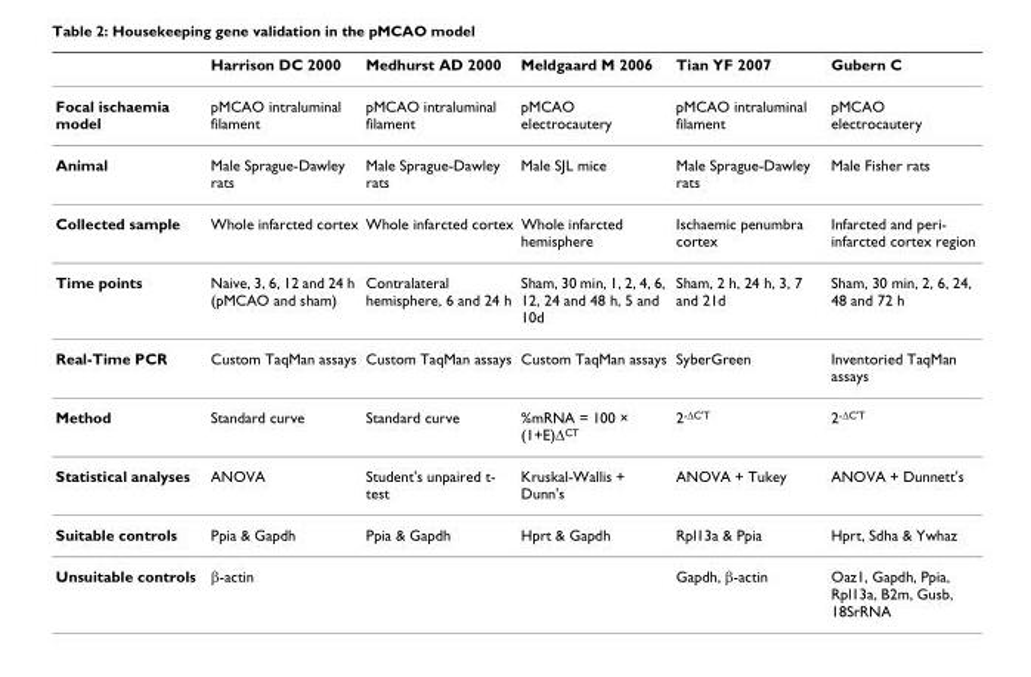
<table><thead><tr><td></td><td>Harrison DC 2000</td><td>Medhurst AD 2000</td><td>Meldgaard M 2006</td><td>Tian YF 2007</td><td>Gubern C</td></tr></thead><tbody><tr><td>Focal ischaemia model</td><td>pMCAO intraluminal filament</td><td>pMCAO intraluminal filament</td><td>pMCAO electrocautery</td><td>pMCAO intraluminal filament</td><td>pMCAO electrocautery</td></tr><tr><td>Animal</td><td>Male Sprague-Dawley rats</td><td>Male Sprague-Dawley rats</td><td>Male SJL mice</td><td>Male Sprague-Dawley rats</td><td>Male Fisher rats</td></tr><tr><td>Collected sample</td><td>Whole infarcted cortex</td><td>Whole infarcted cortex</td><td>Whole infarcted hemisphere</td><td>Ischaemic penumbra cortex</td><td>Infarcted and peri- infarcted cortex region</td></tr><tr><td>Time points</td><td>Naive, 3, 6, 12 and 24 h (pMCAO and sham)</td><td>Contralateral hemisphere, 6 and 24 h</td><td>Sham, 30 min, 1, 2, 4, 6, 12, 24 and 48 h, 5 and 10d</td><td>Sham, 2 h, 24 h, 3, 7 and 21d</td><td>Sham, 30 min, 2, 6, 24, 48 and 72 h</td></tr><tr><td>Real-Time PCR</td><td>Custom TaqMan assays</td><td>Custom TaqMan assays</td><td>Custom TaqMan assays</td><td>SyberGreen</td><td>Inventoried TaqMan assays</td></tr><tr><td>Method</td><td>Standard curve</td><td>Standard curve</td><td>%mRNA = 100 × (1+E)Δ<sup>CT</sup></td><td>2<sup>-ΔC&#x27;T</sup></td><td>2<sup>-ΔC&#x27;T</sup></td></tr><tr><td>Statistical analyses</td><td>ANOVA</td><td>Student&#x27;s unpaired t- test</td><td>Kruskal-Wallis + Dunn&#x27;s</td><td>ANOVA + Tukey</td><td>ANOVA + Dunnett&#x27;s</td></tr><tr><td>Suitable controls</td><td>Ppia &amp; Gapdh</td><td>Ppia &amp; Gapdh</td><td>Hprt &amp; Gapdh</td><td>Rpl13a &amp; Ppia</td><td>Hprt, Sdha &amp; Ywhaz</td></tr><tr><td>Unsuitable controls</td><td>β-actin</td><td></td><td></td><td>Gapdh, β-actin</td><td>Oaz1, Gapdh, Ppia, Rpl13a, B2m, Gusb, 18SrRNA</td></tr></tbody></table>